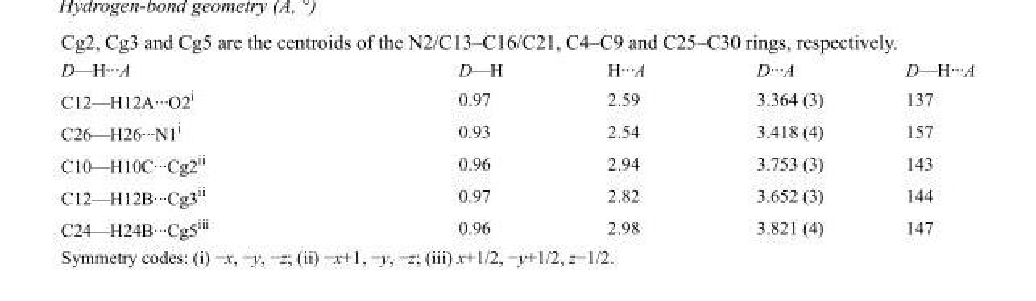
<table><tbody><tr><td>D—H···A</td><td>D—H</td><td>H···A</td><td>D···A</td><td>D—H···A</td></tr><tr><td>C12—H12A···O2<sup>i</sup></td><td>0.97</td><td>2.59</td><td>3.364 (3)</td><td>137</td></tr><tr><td>C26—H26···N1<sup>i</sup></td><td>0.93</td><td>2.54</td><td>3.418 (4)</td><td>157</td></tr><tr><td>C10—H10C···Cg2<sup>ii</sup></td><td>0.96</td><td>2.94</td><td>3.753 (3)</td><td>143</td></tr><tr><td>C12—H12B···Cg3<sup>ii</sup></td><td>0.97</td><td>2.82</td><td>3.652 (3)</td><td>144</td></tr><tr><td>C24—H24B···Cg5<sup>iii</sup></td><td>0.96</td><td>2.98</td><td>3.821 (4)</td><td>147</td></tr></tbody></table>